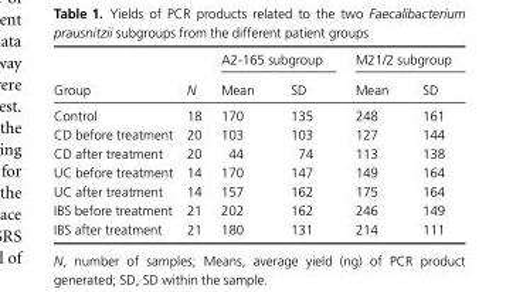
<table><thead><tr><td rowspan="2">Group</td><td rowspan="2">N</td><td colspan="2">A2-165 subgroup</td><td colspan="2">M21/2 subgroup</td></tr><tr><td>Mean</td><td>SD</td><td>Mean</td><td>SD</td></tr></thead><tbody><tr><td>Control</td><td>18</td><td>170</td><td>135</td><td>248</td><td>161</td></tr><tr><td>CD before treatment</td><td>20</td><td>103</td><td>103</td><td>127</td><td>144</td></tr><tr><td>CD after treatment</td><td>20</td><td>44</td><td>74</td><td>113</td><td>138</td></tr><tr><td>UC before treatment</td><td>14</td><td>170</td><td>147</td><td>149</td><td>164</td></tr><tr><td>UC after treatment</td><td>14</td><td>157</td><td>162</td><td>175</td><td>164</td></tr><tr><td>IBS before treatment</td><td>21</td><td>202</td><td>162</td><td>246</td><td>149</td></tr><tr><td>IBS after treatment</td><td>21</td><td>180</td><td>131</td><td>214</td><td>111</td></tr></tbody></table>